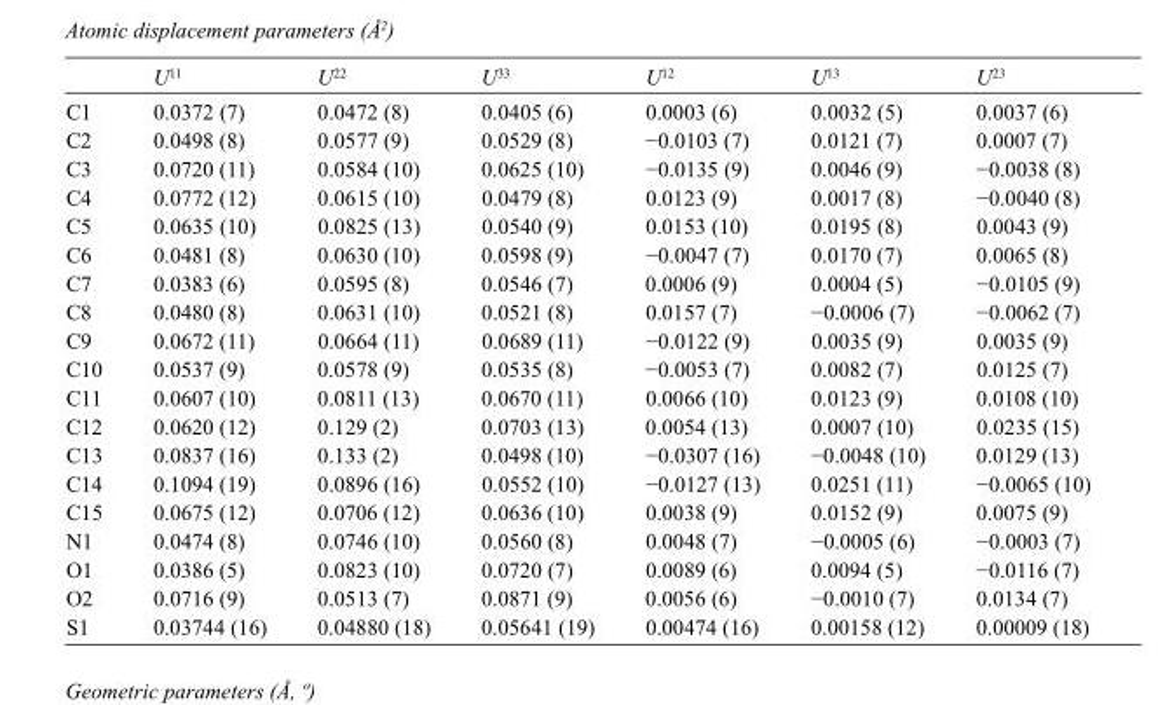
<table><thead><tr><td></td><td>U<sup>11</sup></td><td>U<sup>22</sup></td><td>U<sup>33</sup></td><td>U<sup>12</sup></td><td>U<sup>13</sup></td><td>U<sup>23</sup></td></tr></thead><tbody><tr><td>C1</td><td>0.0372 (7)</td><td>0.0472 (8)</td><td>0.0405 (6)</td><td>0.0003 (6)</td><td>0.0032 (5)</td><td>0.0037 (6)</td></tr><tr><td>C2</td><td>0.0498 (8)</td><td>0.0577 (9)</td><td>0.0529 (8)</td><td>−0.0103 (7)</td><td>0.0121 (7)</td><td>0.0007 (7)</td></tr><tr><td>C3</td><td>0.0720 (11)</td><td>0.0584 (10)</td><td>0.0625 (10)</td><td>−0.0135 (9)</td><td>0.0046 (9)</td><td>−0.0038 (8)</td></tr><tr><td>C4</td><td>0.0772 (12)</td><td>0.0615 (10)</td><td>0.0479 (8)</td><td>0.0123 (9)</td><td>0.0017 (8)</td><td>−0.0040 (8)</td></tr><tr><td>C5</td><td>0.0635 (10)</td><td>0.0825 (13)</td><td>0.0540 (9)</td><td>0.0153 (10)</td><td>0.0195 (8)</td><td>0.0043 (9)</td></tr><tr><td>C6</td><td>0.0481 (8)</td><td>0.0630 (10)</td><td>0.0598 (9)</td><td>−0.0047 (7)</td><td>0.0170 (7)</td><td>0.0065 (8)</td></tr><tr><td>C7</td><td>0.0383 (6)</td><td>0.0595 (8)</td><td>0.0546 (7)</td><td>0.0006 (9)</td><td>0.0004 (5)</td><td>−0.0105 (9)</td></tr><tr><td>C8</td><td>0.0480 (8)</td><td>0.0631 (10)</td><td>0.0521 (8)</td><td>0.0157 (7)</td><td>−0.0006 (7)</td><td>−0.0062 (7)</td></tr><tr><td>C9</td><td>0.0672 (11)</td><td>0.0664 (11)</td><td>0.0689 (11)</td><td>−0.0122 (9)</td><td>0.0035 (9)</td><td>0.0035 (9)</td></tr><tr><td>C10</td><td>0.0537 (9)</td><td>0.0578 (9)</td><td>0.0535 (8)</td><td>−0.0053 (7)</td><td>0.0082 (7)</td><td>0.0125 (7)</td></tr><tr><td>C11</td><td>0.0607 (10)</td><td>0.0811 (13)</td><td>0.0670 (11)</td><td>0.0066 (10)</td><td>0.0123 (9)</td><td>0.0108 (10)</td></tr><tr><td>C12</td><td>0.0620 (12)</td><td>0.129 (2)</td><td>0.0703 (13)</td><td>0.0054 (13)</td><td>0.0007 (10)</td><td>0.0235 (15)</td></tr><tr><td>C13</td><td>0.0837 (16)</td><td>0.133 (2)</td><td>0.0498 (10)</td><td>−0.0307 (16)</td><td>−0.0048 (10)</td><td>0.0129 (13)</td></tr><tr><td>C14</td><td>0.1094 (19)</td><td>0.0896 (16)</td><td>0.0552 (10)</td><td>−0.0127 (13)</td><td>0.0251 (11)</td><td>−0.0065 (10)</td></tr><tr><td>C15</td><td>0.0675 (12)</td><td>0.0706 (12)</td><td>0.0636 (10)</td><td>0.0038 (9)</td><td>0.0152 (9)</td><td>0.0075 (9)</td></tr><tr><td>N1</td><td>0.0474 (8)</td><td>0.0746 (10)</td><td>0.0560 (8)</td><td>0.0048 (7)</td><td>−0.0005 (6)</td><td>−0.0003 (7)</td></tr><tr><td>O1</td><td>0.0386 (5)</td><td>0.0823 (10)</td><td>0.0720 (7)</td><td>0.0089 (6)</td><td>0.0094 (5)</td><td>−0.0116 (7)</td></tr><tr><td>O2</td><td>0.0716 (9)</td><td>0.0513 (7)</td><td>0.0871 (9)</td><td>0.0056 (6)</td><td>−0.0010 (7)</td><td>0.0134 (7)</td></tr><tr><td>S1</td><td>0.03744 (16)</td><td>0.04880 (18)</td><td>0.05641 (19)</td><td>0.00474 (16)</td><td>0.00158 (12)</td><td>0.00009 (18)</td></tr></tbody></table>